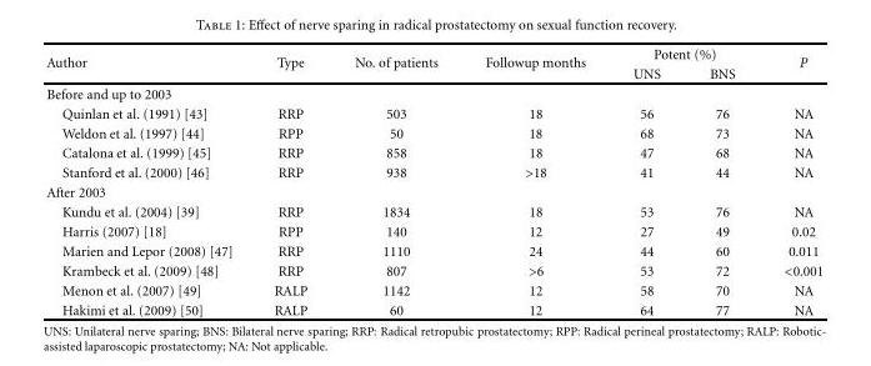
<table><thead><tr><td rowspan="2">Author</td><td rowspan="2">Type</td><td rowspan="2">No. of patients</td><td rowspan="2">Followup months</td><td colspan="2">Potent (%)</td><td rowspan="2">P</td></tr><tr><td>UNS</td><td>BNS</td></tr></thead><tbody><tr><td colspan="7">Before and up to 2003</td></tr><tr><td>Quinlan et al. (1991) [43]</td><td>RRP</td><td>503</td><td>18</td><td>56</td><td>76</td><td>NA</td></tr><tr><td>Weldon et al. (1997) [44]</td><td>RPP</td><td>50</td><td>18</td><td>68</td><td>73</td><td>NA</td></tr><tr><td>Catalona et al. (1999) [45]</td><td>RRP</td><td>858</td><td>18</td><td>47</td><td>68</td><td>NA</td></tr><tr><td>Stanford et al. (2000) [46]</td><td>RRP</td><td>938</td><td>&gt;18</td><td>41</td><td>44</td><td>NA</td></tr><tr><td colspan="7">After 2003</td></tr><tr><td>Kundu et al. (2004) [39]</td><td>RRP</td><td>1834</td><td>18</td><td>53</td><td>76</td><td>NA</td></tr><tr><td>Harris (2007) [18]</td><td>RPP</td><td>140</td><td>12</td><td>27</td><td>49</td><td>0.02</td></tr><tr><td>Marien and Lepor (2008) [47]</td><td>RRP</td><td>1110</td><td>24</td><td>44</td><td>60</td><td>0.011</td></tr><tr><td>Krambeck et al. (2009) [48]</td><td>RRP</td><td>807</td><td>&gt;6</td><td>53</td><td>72</td><td>&lt;0.001</td></tr><tr><td>Menon et al. (2007) [49]</td><td>RALP</td><td>1142</td><td>12</td><td>58</td><td>70</td><td>NA</td></tr><tr><td>Hakimi et al. (2009) [50]</td><td>RALP</td><td>60</td><td>12</td><td>64</td><td>77</td><td>NA</td></tr></tbody></table>